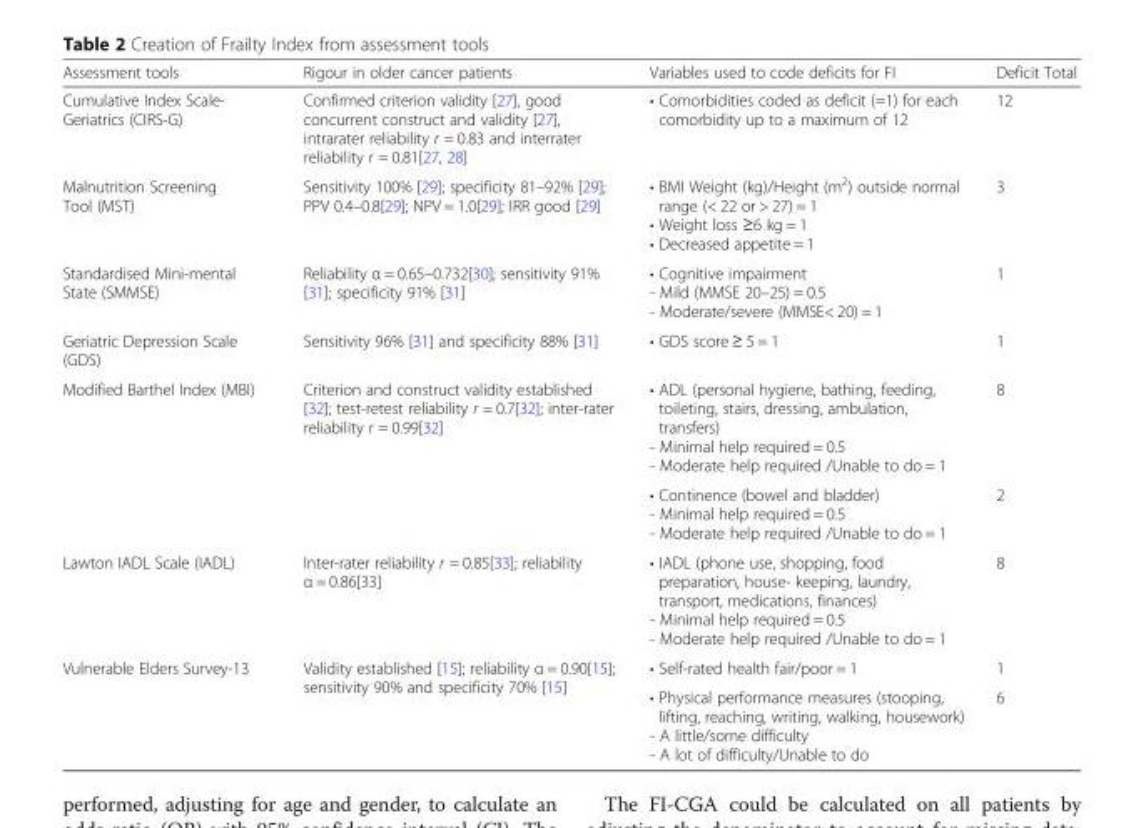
<table><thead><tr><td>Assessment tools</td><td>Rigour in older cancer patients</td><td>Variables used to code deficits for FI</td><td>Deficit Total</td></tr></thead><tbody><tr><td>Cumulative Index Scale- Geriatrics (CIRS-G)</td><td>Confirmed criterion validity [27], good concurrent construct and validity [27], intrarater reliability r = 0.83 and interrater reliability r = 0.81[27, 28]</td><td>• Comorbidities coded as deficit (=1) for each comorbidity up to a maximum of 12</td><td>12</td></tr><tr><td>Malnutrition Screening Tool (MST)</td><td>Sensitivity 100% [29]; specificity 81–92% [29]; PPV 0.4–0.8[29]; NPV = 1.0[29]; IRR good [29]</td><td>• BMI Weight (kg)/Height (m<sup>2</sup>) outside normal range (&lt; 22 or &gt; 27) = 1 • Weight loss ≥6 kg = 1 • Decreased appetite = 1</td><td>3</td></tr><tr><td>Standardised Mini-mental State (SMMSE)</td><td>Reliability α = 0.65–0.732[30]; sensitivity 91% [31]; specificity 91% [31]</td><td>• Cognitive impairment - Mild (MMSE 20–25) = 0.5 - Moderate/severe (MMSE&lt; 20) = 1</td><td>1</td></tr><tr><td>Geriatric Depression Scale (GDS)</td><td>Sensitivity 96% [31] and specificity 88% [31]</td><td>• GDS score ≥ 5 = 1</td><td>1</td></tr><tr><td rowspan="2">Modified Barthel Index (MBI)</td><td rowspan="2">Criterion and construct validity established [32]; test-retest reliability r = 0.7[32]; inter-rater reliability r = 0.99[32]</td><td>• ADL (personal hygiene, bathing, feeding, toileting, stairs, dressing, ambulation, transfers) - Minimal help required = 0.5 - Moderate help required /Unable to do = 1</td><td>8</td></tr><tr><td>• Continence (bowel and bladder) - Minimal help required = 0.5 - Moderate help required /Unable to do = 1</td><td>2</td></tr><tr><td>Lawton IADL Scale (IADL)</td><td>Inter-rater reliability r = 0.85[33]; reliability α = 0.86[33]</td><td>• IADL (phone use, shopping, food preparation, house- keeping, laundry, transport, medications, finances) - Minimal help required = 0.5 - Moderate help required /Unable to do = 1</td><td>8</td></tr><tr><td rowspan="2">Vulnerable Elders Survey-13</td><td rowspan="2">Validity established [15]; reliability α = 0.90[15]; sensitivity 90% and specificity 70% [15]</td><td>• Self-rated health fair/poor = 1</td><td>1</td></tr><tr><td>• Physical performance measures (stooping, lifting, reaching, writing, walking, housework) - A little/some difficulty - A lot of difficulty/Unable to do</td><td>6</td></tr></tbody></table>